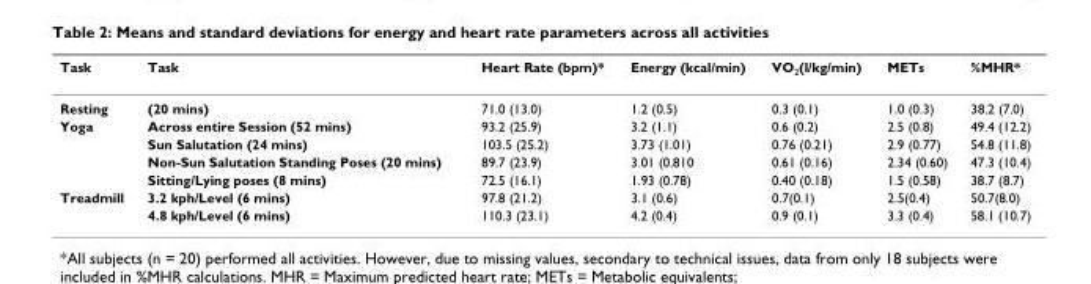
<table><thead><tr><td>Task</td><td>Task</td><td>Heart Rate (bpm)*</td><td>Energy (kcal/min)</td><td>VO<sub>2</sub>(l/kg/min)</td><td>METs</td><td>%MHR*</td></tr></thead><tbody><tr><td>Resting</td><td>(20 mins)</td><td>71.0 (13.0)</td><td>1.2 (0.5)</td><td>0.3 (0.1)</td><td>1.0 (0.3)</td><td>38.2 (7.0)</td></tr><tr><td rowspan="4">Yoga</td><td>Across entire Session (52 mins)</td><td>93.2 (25.9)</td><td>3.2 (1.1)</td><td>0.6 (0.2)</td><td>2.5 (0.8)</td><td>49.4 (12.2)</td></tr><tr><td>Sun Salutation (24 mins)</td><td>103.5 (25.2)</td><td>3.73 (1.01)</td><td>0.76 (0.21)</td><td>2.9 (0.77)</td><td>54.8 (11.8)</td></tr><tr><td>Non-Sun Salutation Standing Poses (20 mins)</td><td>89.7 (23.9)</td><td>3.01 (0.810</td><td>0.61 (0.16)</td><td>2.34 (0.60)</td><td>47.3 (10.4)</td></tr><tr><td>Sitting/Lying poses (8 mins)</td><td>72.5 (16.1)</td><td>1.93 (0.78)</td><td>0.40 (0.18)</td><td>1.5 (0.58)</td><td>38.7 (8.7)</td></tr><tr><td rowspan="2">Treadmill</td><td>3.2 kph/Level (6 mins)</td><td>97.8 (21.2)</td><td>3.1 (0.6)</td><td>0.7(0.1)</td><td>2.5(0.4)</td><td>50.7(8.0)</td></tr><tr><td>4.8 kph/Level (6 mins)</td><td>110.3 (23.1)</td><td>4.2 (0.4)</td><td>0.9 (0.1)</td><td>3.3 (0.4)</td><td>58.1 (10.7)</td></tr></tbody></table>